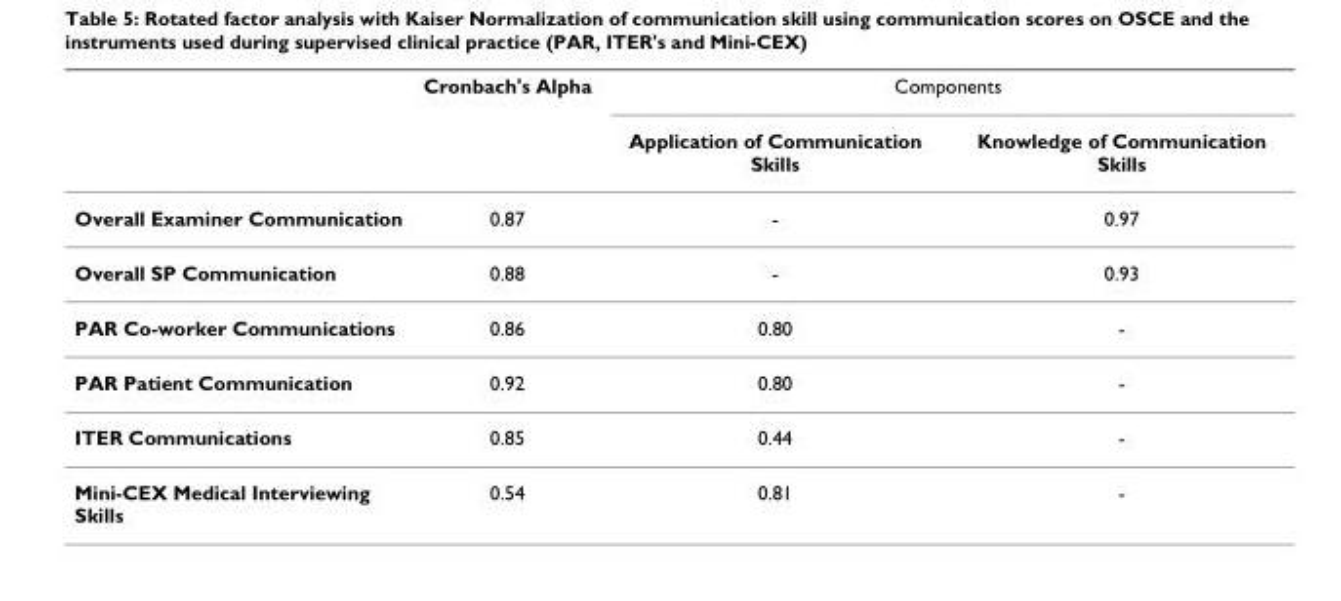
<table><thead><tr><td rowspan="2"></td><td rowspan="2">Cronbach&#x27;s Alpha</td><td colspan="2">Components</td></tr><tr><td>Application of Communication Skills</td><td>Knowledge of Communication Skills</td></tr></thead><tbody><tr><td>Overall Examiner Communication</td><td>0.87</td><td>-</td><td>0.97</td></tr><tr><td>Overall SP Communication</td><td>0.88</td><td>-</td><td>0.93</td></tr><tr><td>PAR Co-worker Communications</td><td>0.86</td><td>0.80</td><td>-</td></tr><tr><td>PAR Patient Communication</td><td>0.92</td><td>0.80</td><td>-</td></tr><tr><td>ITER Communications</td><td>0.85</td><td>0.44</td><td>-</td></tr><tr><td>Mini-CEX Medical Interviewing Skills</td><td>0.54</td><td>0.81</td><td>-</td></tr></tbody></table>